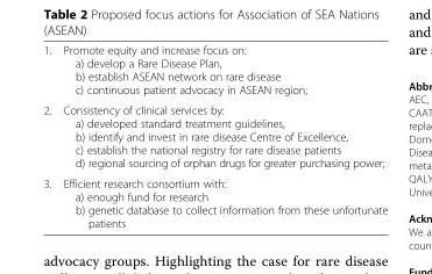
<table><tbody><tr><td>1.</td><td>Promote equity and increase focus on: a) develop a Rare Disease Plan, b) establish ASEAN network on rare disease c) continuous patient advocacy in ASEAN region;</td></tr><tr><td>2.</td><td>Consistency of clinical services by: a) developed standard treatment guidelines, b) identify and invest in rare disease Centre of Excellence, c) establish the national registry for rare disease patients d) regional sourcing of orphan drugs for greater purchasing power;</td></tr><tr><td>3.</td><td>Efficient research consortium with: a) enough fund for research b) genetic database to collect information from these unfortunate patients</td></tr></tbody></table>